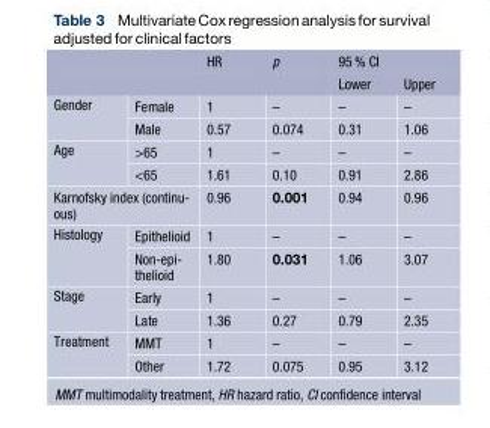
<table><thead><tr><td rowspan="2"></td><td rowspan="2"></td><td rowspan="2">HR</td><td rowspan="2">p</td><td colspan="2">95 % CI</td></tr><tr><td>Lower</td><td>Upper</td></tr></thead><tbody><tr><td rowspan="2">Gender</td><td>Female</td><td>1</td><td>–</td><td>–</td><td>–</td></tr><tr><td>Male</td><td>0.57</td><td>0.074</td><td>0.31</td><td>1.06</td></tr><tr><td rowspan="2">Age</td><td>&gt;65</td><td>1</td><td>–</td><td>–</td><td>–</td></tr><tr><td>&lt;65</td><td>1.61</td><td>0.10</td><td>0.91</td><td>2.86</td></tr><tr><td colspan="2">Karnofsky index (continu- ous)</td><td>0.96</td><td>0.001</td><td>0.94</td><td>0.96</td></tr><tr><td rowspan="2">Histology</td><td>Epithelioid</td><td>1</td><td>–</td><td>–</td><td>–</td></tr><tr><td>Non-epi- thelioid</td><td>1.80</td><td>0.031</td><td>1.06</td><td>3.07</td></tr><tr><td rowspan="2">Stage</td><td>Early</td><td>1</td><td>–</td><td>–</td><td>–</td></tr><tr><td>Late</td><td>1.36</td><td>0.27</td><td>0.79</td><td>2.35</td></tr><tr><td rowspan="2">Treatment</td><td>MMT</td><td>1</td><td>–</td><td>–</td><td>–</td></tr><tr><td>Other</td><td>1.72</td><td>0.075</td><td>0.95</td><td>3.12</td></tr></tbody></table>